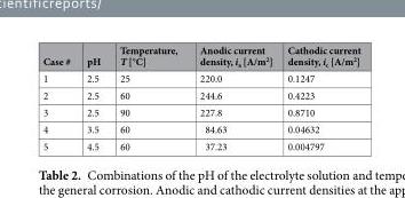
<table><thead><tr><td>Case #</td><td>pH</td><td>Temperature, T [°C]</td><td>Anodic current density, i<sub>a</sub> [A/m<sup>2</sup>]</td><td>Cathodic current density, i<sub>c</sub> [A/m<sup>2</sup>]</td></tr></thead><tbody><tr><td>1</td><td>2.5</td><td>25</td><td>220.0</td><td>0.1247</td></tr><tr><td>2</td><td>2.5</td><td>60</td><td>244.6</td><td>0.4223</td></tr><tr><td>3</td><td>2.5</td><td>90</td><td>227.8</td><td>0.8710</td></tr><tr><td>4</td><td>3.5</td><td>60</td><td>84.63</td><td>0.04632</td></tr><tr><td>5</td><td>4.5</td><td>60</td><td>37.23</td><td>0.004797</td></tr></tbody></table>